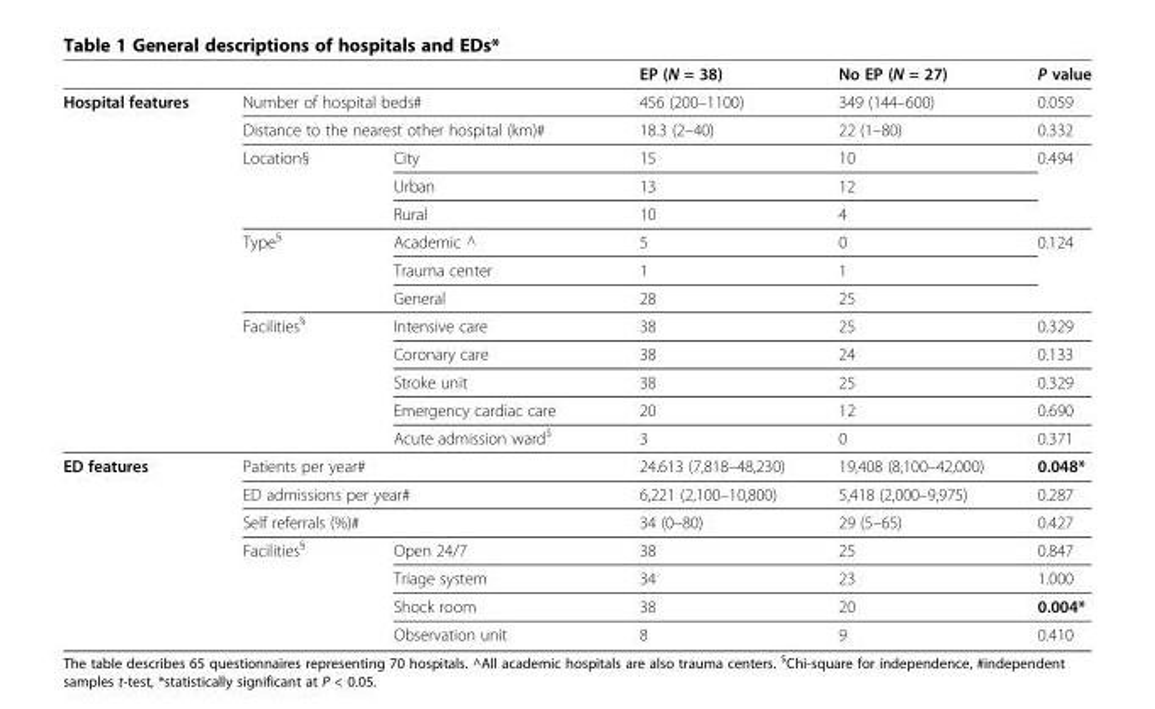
<table><thead><tr><td></td><td></td><td></td><td>EP (N = 38)</td><td>No EP (N = 27)</td><td>P value</td></tr></thead><tbody><tr><td rowspan="13">Hospital features</td><td colspan="2">Number of hospital beds#</td><td>456 (200–1100)</td><td>349 (144–600)</td><td>0.059</td></tr><tr><td colspan="2">Distance to the nearest other hospital (km)#</td><td>18.3 (2–40)</td><td>22 (1–80)</td><td>0.332</td></tr><tr><td rowspan="3">Location§</td><td>City</td><td>15</td><td>10</td><td rowspan="3">0.494</td></tr><tr><td>Urban</td><td>13</td><td>12</td></tr><tr><td>Rural</td><td>10</td><td>4</td></tr><tr><td rowspan="3">Type<sup>§</sup></td><td>Academic ^</td><td>5</td><td>0</td><td rowspan="3">0.124</td></tr><tr><td>Trauma center</td><td>1</td><td>1</td></tr><tr><td>General</td><td>28</td><td>25</td></tr><tr><td rowspan="5">Facilities<sup>§</sup></td><td>Intensive care</td><td>38</td><td>25</td><td>0.329</td></tr><tr><td>Coronary care</td><td>38</td><td>24</td><td>0.133</td></tr><tr><td>Stroke unit</td><td>38</td><td>25</td><td>0.329</td></tr><tr><td>Emergency cardiac care</td><td>20</td><td>12</td><td>0.690</td></tr><tr><td>Acute admission ward<sup>$</sup></td><td>3</td><td>0</td><td>0.371</td></tr><tr><td rowspan="7">ED features</td><td colspan="2">Patients per year#</td><td>24.613 (7,818–48,230)</td><td>19,408 (8,100–42,000)</td><td>0.048*</td></tr><tr><td colspan="2">ED admissions per year#</td><td>6,221 (2,100–10,800)</td><td>5,418 (2,000–9,975)</td><td>0.287</td></tr><tr><td colspan="2">Self referrals (%)#</td><td>34 (0–80)</td><td>29 (5–65)</td><td>0.427</td></tr><tr><td rowspan="4">Facilities<sup>§</sup></td><td>Open 24/7</td><td>38</td><td>25</td><td>0.847</td></tr><tr><td>Triage system</td><td>34</td><td>23</td><td>1.000</td></tr><tr><td>Shock room</td><td>38</td><td>20</td><td>0.004*</td></tr><tr><td>Observation unit</td><td>8</td><td>9</td><td>0.410</td></tr></tbody></table>